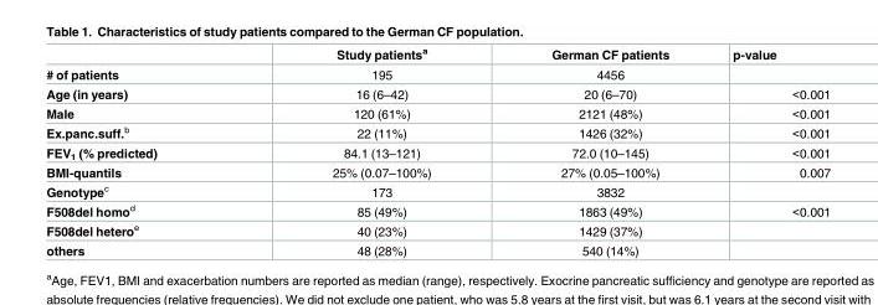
<table><thead><tr><td></td><td>Study patients<sup>a</sup></td><td>German CF patients</td><td>p-value</td></tr></thead><tbody><tr><td># of patients</td><td>195</td><td>4456</td><td></td></tr><tr><td>Age (in years)</td><td>16 (6–42)</td><td>20 (6–70)</td><td>&lt;0.001</td></tr><tr><td>Male</td><td>120 (61%)</td><td>2121 (48%)</td><td>&lt;0.001</td></tr><tr><td>Ex.panc.suff.<sup>b</sup></td><td>22 (11%)</td><td>1426 (32%)</td><td>&lt;0.001</td></tr><tr><td>FEV<sub>1</sub> (% predicted)</td><td>84.1 (13–121)</td><td>72.0 (10–145)</td><td>&lt;0.001</td></tr><tr><td>BMI-quantils</td><td>25% (0.07–100%)</td><td>27% (0.05–100%)</td><td>0.007</td></tr><tr><td>Genotype<sup>c</sup></td><td>173</td><td>3832</td><td></td></tr><tr><td>F508del homo<sup>d</sup></td><td>85 (49%)</td><td>1863 (49%)</td><td>&lt;0.001</td></tr><tr><td>F508del hetero<sup>e</sup></td><td>40 (23%)</td><td>1429 (37%)</td><td></td></tr><tr><td>others</td><td>48 (28%)</td><td>540 (14%)</td><td></td></tr></tbody></table>